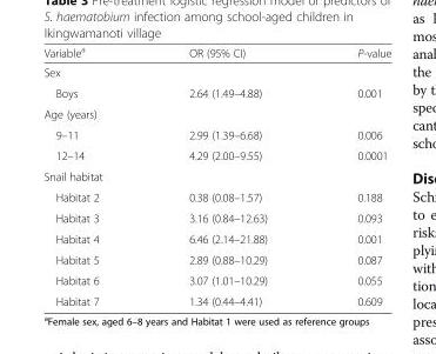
<table><thead><tr><td>Variable<sup>a</sup></td><td>OR (95% CI)</td><td>P-value</td></tr></thead><tbody><tr><td colspan="3">Sex</td></tr><tr><td>Boys</td><td>2.64 (1.49–4.88)</td><td>0.001</td></tr><tr><td colspan="3">Age (years)</td></tr><tr><td>9–11</td><td>2.99 (1.39–6.68)</td><td>0.006</td></tr><tr><td>12–14</td><td>4.29 (2.00–9.55)</td><td>0.0001</td></tr><tr><td colspan="3">Snail habitat</td></tr><tr><td>Habitat 2</td><td>0.38 (0.08–1.57)</td><td>0.188</td></tr><tr><td>Habitat 3</td><td>3.16 (0.84–12.63)</td><td>0.093</td></tr><tr><td>Habitat 4</td><td>6.46 (2.14–21.88)</td><td>0.001</td></tr><tr><td>Habitat 5</td><td>2.89 (0.88–10.29)</td><td>0.087</td></tr><tr><td>Habitat 6</td><td>3.07 (1.01–10.29)</td><td>0.055</td></tr><tr><td>Habitat 7</td><td>1.34 (0.44–4.41)</td><td>0.609</td></tr></tbody></table>